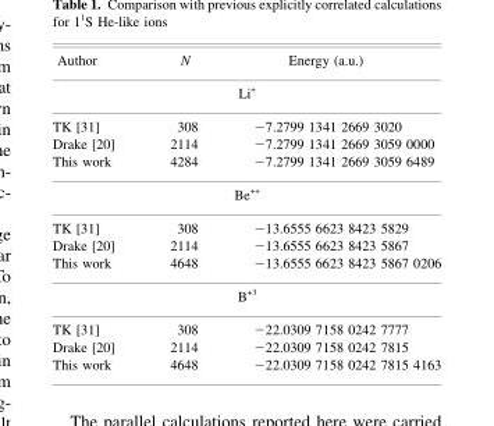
<table><thead><tr><td>Author</td><td>N</td><td>Energy (a.u.)</td></tr></thead><tbody><tr><td colspan="3">Li<sup>+</sup></td></tr><tr><td>TK [31]</td><td>308</td><td>−7.2799 1341 2669 3020</td></tr><tr><td>Drake [20]</td><td>2114</td><td>−7.2799 1341 2669 3059 0000</td></tr><tr><td>This work</td><td>4284</td><td>−7.2799 1341 2669 3059 6489</td></tr><tr><td colspan="3">Be<sup>++</sup></td></tr><tr><td>TK [31]</td><td>308</td><td>−13.6555 6623 8423 5829</td></tr><tr><td>Drake [20]</td><td>2114</td><td>−13.6555 6623 8423 5867</td></tr><tr><td>This work</td><td>4648</td><td>−13.6555 6623 8423 5867 0206</td></tr><tr><td colspan="3">B<sup>+3</sup></td></tr><tr><td>TK [31]</td><td>308</td><td>−22.0309 7158 0242 7777</td></tr><tr><td>Drake [20]</td><td>2114</td><td>−22.0309 7158 0242 7815</td></tr><tr><td>This work</td><td>4648</td><td>−22.0309 7158 0242 7815 4163</td></tr></tbody></table>